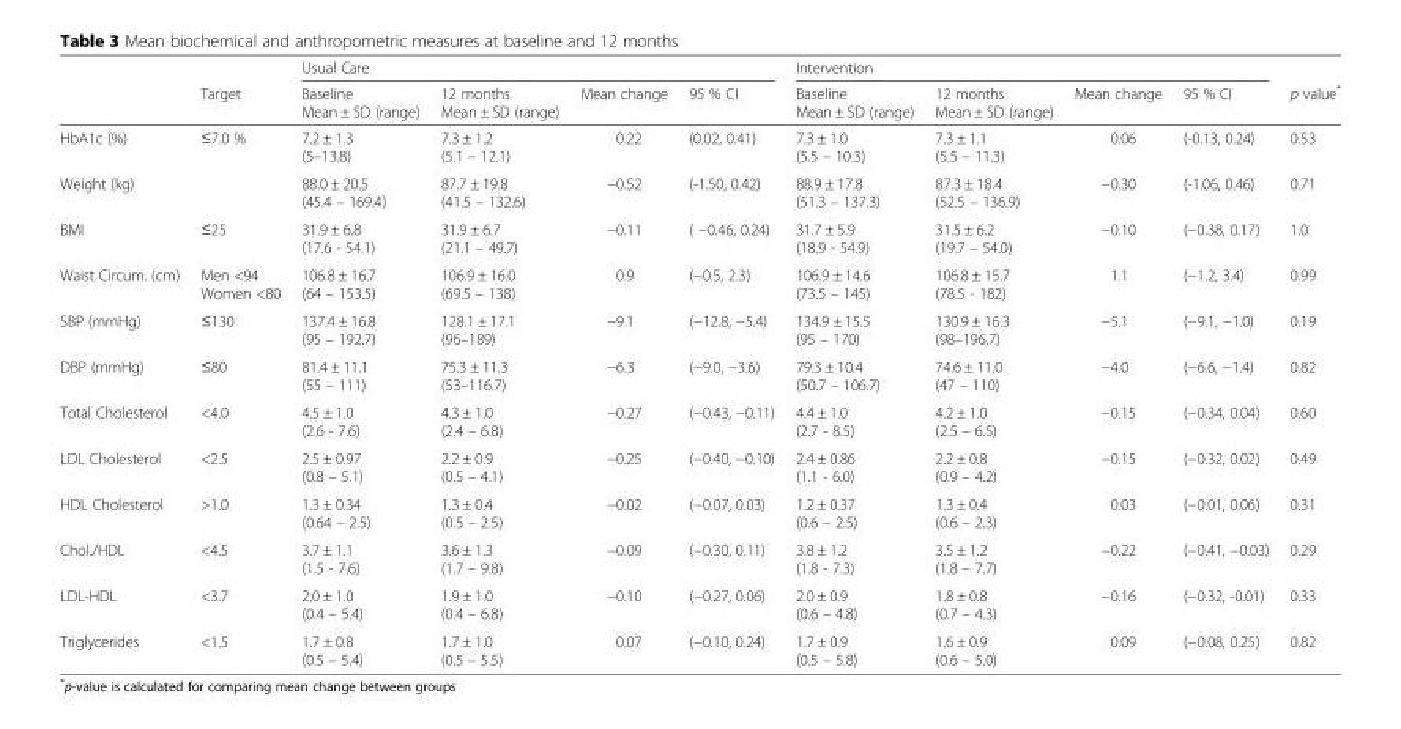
<table><thead><tr><td rowspan="2"></td><td rowspan="2">Target</td><td colspan="4">Usual Care</td><td colspan="4">Intervention</td><td rowspan="2">p value*</td></tr><tr><td>Baseline Mean ± SD (range)</td><td>12 months Mean ± SD (range)</td><td>Mean change</td><td>95 % CI</td><td>Baseline Mean ± SD (range)</td><td>12 months Mean ± SD (range)</td><td>Mean change</td><td>95 % CI</td></tr></thead><tbody><tr><td>HbA1c (%)</td><td>≤7.0 %</td><td>7.2 ± 1.3 (5–13.8)</td><td>7.3 ± 1.2 (5.1 – 12.1)</td><td>0.22</td><td>(0.02, 0.41)</td><td>7.3 ± 1.0 (5.5 – 10.3)</td><td>7.3 ± 1.1 (5.5 – 11.3)</td><td>0.06</td><td>(-0.13, 0.24)</td><td>0.53</td></tr><tr><td>Weight (kg)</td><td></td><td>88.0 ± 20.5 (45.4 – 169.4)</td><td>87.7 ± 19.8 (41.5 – 132.6)</td><td>−0.52</td><td>(-1.50, 0.42)</td><td>88.9 ± 17.8 (51.3 – 137.3)</td><td>87.3 ± 18.4 (52.5 – 136.9)</td><td>−0.30</td><td>(-1.06, 0.46)</td><td>0.71</td></tr><tr><td>BMI</td><td>≤25</td><td>31.9 ± 6.8 (17.6 - 54.1)</td><td>31.9 ± 6.7 (21.1 – 49.7)</td><td>−0.11</td><td>( −0.46, 0.24)</td><td>31.7 ± 5.9 (18.9 - 54.9)</td><td>31.5 ± 6.2 (19.7 – 54.0)</td><td>−0.10</td><td>(−0.38, 0.17)</td><td>1.0</td></tr><tr><td>Waist Circum. (cm)</td><td>Men &lt;94 Women &lt;80</td><td>106.8 ± 16.7 (64 – 153.5)</td><td>106.9 ± 16.0 (69.5 – 138)</td><td>0.9</td><td>(−0.5, 2.3)</td><td>106.9 ± 14.6 (73.5 – 145)</td><td>106.8 ± 15.7 (78.5 - 182)</td><td>1.1</td><td>(−1.2, 3.4)</td><td>0.99</td></tr><tr><td>SBP (mmHg)</td><td>≤130</td><td>137.4 ± 16.8 (95 – 192.7)</td><td>128.1 ± 17.1 (96–189)</td><td>−9.1</td><td>(−12.8, −5.4)</td><td>134.9 ± 15.5 (95 – 170)</td><td>130.9 ± 16.3 (98–196.7)</td><td>−5.1</td><td>(−9.1, −1.0)</td><td>0.19</td></tr><tr><td>DBP (mmHg)</td><td>≤80</td><td>81.4 ± 11.1 (55 – 111)</td><td>75.3 ± 11.3 (53–116.7)</td><td>−6.3</td><td>(−9.0, −3.6)</td><td>79.3 ± 10.4 (50.7 – 106.7)</td><td>74.6 ± 11.0 (47 – 110)</td><td>−4.0</td><td>(−6.6, −1.4)</td><td>0.82</td></tr><tr><td>Total Cholesterol</td><td>&lt;4.0</td><td>4.5 ± 1.0 (2.6 - 7.6)</td><td>4.3 ± 1.0 (2.4 – 6.8)</td><td>−0.27</td><td>(−0.43, −0.11)</td><td>4.4 ± 1.0 (2.7 - 8.5)</td><td>4.2 ± 1.0 (2.5 – 6.5)</td><td>−0.15</td><td>(−0.34, 0.04)</td><td>0.60</td></tr><tr><td>LDL Cholesterol</td><td>&lt;2.5</td><td>2.5 ± 0.97 (0.8 – 5.1)</td><td>2.2 ± 0.9 (0.5 – 4.1)</td><td>−0.25</td><td>(−0.40, −0.10)</td><td>2.4 ± 0.86 (1.1 - 6.0)</td><td>2.2 ± 0.8 (0.9 – 4.2)</td><td>−0.15</td><td>(−0.32, 0.02)</td><td>0.49</td></tr><tr><td>HDL Cholesterol</td><td>&gt;1.0</td><td>1.3 ± 0.34 (0.64 – 2.5)</td><td>1.3 ± 0.4 (0.5 – 2.5)</td><td>−0.02</td><td>(−0.07, 0.03)</td><td>1.2 ± 0.37 (0.6 – 2.5)</td><td>1.3 ± 0.4 (0.6 – 2.3)</td><td>0.03</td><td>(−0.01, 0.06)</td><td>0.31</td></tr><tr><td>Chol./HDL</td><td>&lt;4.5</td><td>3.7 ± 1.1 (1.5 - 7.6)</td><td>3.6 ± 1.3 (1.7 – 9.8)</td><td>−0.09</td><td>(−0.30, 0.11)</td><td>3.8 ± 1.2 (1.8 - 7.3)</td><td>3.5 ± 1.2 (1.8 – 7.7)</td><td>−0.22</td><td>(−0.41, −0.03)</td><td>0.29</td></tr><tr><td>LDL-HDL</td><td>&lt;3.7</td><td>2.0 ± 1.0 (0.4 – 5.4)</td><td>1.9 ± 1.0 (0.4 – 6.8)</td><td>−0.10</td><td>(−0.27, 0.06)</td><td>2.0 ± 0.9 (0.6 – 4.8)</td><td>1.8 ± 0.8 (0.7 – 4.3)</td><td>−0.16</td><td>(−0.32, -0.01)</td><td>0.33</td></tr><tr><td>Triglycerides</td><td>&lt;1.5</td><td>1.7 ± 0.8 (0.5 – 5.4)</td><td>1.7 ± 1.0 (0.5 – 5.5)</td><td>0.07</td><td>(−0.10, 0.24)</td><td>1.7 ± 0.9 (0.5 – 5.8)</td><td>1.6 ± 0.9 (0.6 – 5.0)</td><td>0.09</td><td>(−0.08, 0.25)</td><td>0.82</td></tr></tbody></table>